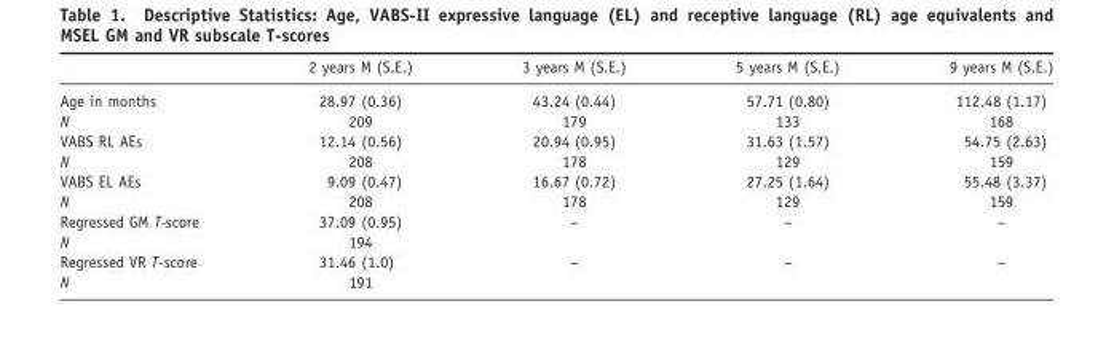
<table><thead><tr><td></td><td>2 years M (S.E.)</td><td>3 years M (S.E.)</td><td>5 years M (S.E.)</td><td>9 years M (S.E.)</td></tr></thead><tbody><tr><td>Age in months</td><td>28.97 (0.36)</td><td>43.24 (0.44)</td><td>57.71 (0.80)</td><td>112.48 (1.17)</td></tr><tr><td>N</td><td>209</td><td>179</td><td>133</td><td>168</td></tr><tr><td>VABS RL AEs</td><td>12.14 (0.56)</td><td>20.94 (0.95)</td><td>31.63 (1.57)</td><td>54.75 (2.63)</td></tr><tr><td>N</td><td>208</td><td>178</td><td>129</td><td>159</td></tr><tr><td>VABS EL AEs</td><td>9.09 (0.47)</td><td>16.67 (0.72)</td><td>27.25 (1.64)</td><td>55.48 (3.37)</td></tr><tr><td>N</td><td>208</td><td>178</td><td>129</td><td>159</td></tr><tr><td>Regressed GM T-score</td><td>37.09 (0.95)</td><td>–</td><td>–</td><td>–</td></tr><tr><td>N</td><td>194</td><td></td><td></td><td></td></tr><tr><td>Regressed VR T-score</td><td>31.46 (1.0)</td><td>–</td><td>–</td><td>–</td></tr><tr><td>N</td><td>191</td><td></td><td></td><td></td></tr></tbody></table>